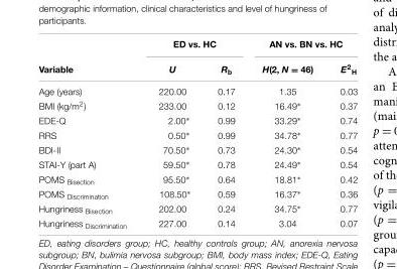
<table><thead><tr><td rowspan="2">Variable</td><td colspan="2">ED vs. HC</td><td colspan="2">AN vs. BN vs. HC</td></tr><tr><td>U</td><td>R<sub>b</sub></td><td>H(2, N = 46)</td><td>E<sup>2</sup><sub>H</sub></td></tr></thead><tbody><tr><td>Age (years)</td><td>220.00</td><td>0.17</td><td>1.35</td><td>0.03</td></tr><tr><td>BMI (kg/m<sup>2</sup>)</td><td>233.00</td><td>0.12</td><td>16.49∗</td><td>0.37</td></tr><tr><td>EDE-Q</td><td>2.00∗</td><td>0.99</td><td>33.29∗</td><td>0.74</td></tr><tr><td>RRS</td><td>0.50∗</td><td>0.99</td><td>34.78∗</td><td>0.77</td></tr><tr><td>BDI-II</td><td>70.50∗</td><td>0.73</td><td>24.30∗</td><td>0.54</td></tr><tr><td>STAI-Y (part A)</td><td>59.50∗</td><td>0.78</td><td>24.49∗</td><td>0.54</td></tr><tr><td>POMS <sub>Bisection</sub></td><td>95.50∗</td><td>0.64</td><td>18.81∗</td><td>0.42</td></tr><tr><td>POMS <sub>Discrimination</sub></td><td>108.50∗</td><td>0.59</td><td>16.37∗</td><td>0.36</td></tr><tr><td>Hungriness <sub>Bisection</sub></td><td>202.00</td><td>0.24</td><td>34.75∗</td><td>0.77</td></tr><tr><td>Hungriness <sub>Discrimination</sub></td><td>227.00</td><td>0.14</td><td>3.04</td><td>0.07</td></tr></tbody></table>